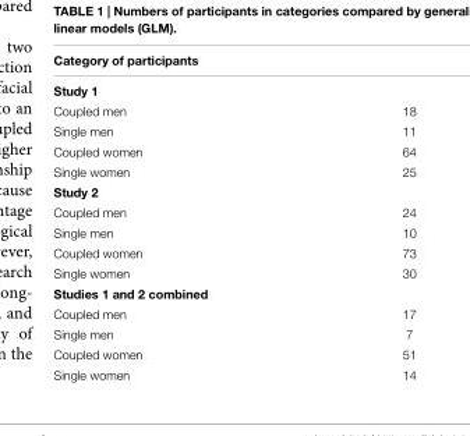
<table><thead><tr><td>Category of participants</td><td></td></tr></thead><tbody><tr><td colspan="2">Study 1</td></tr><tr><td>Coupled men</td><td>18</td></tr><tr><td>Single men</td><td>11</td></tr><tr><td>Coupled women</td><td>64</td></tr><tr><td>Single women</td><td>25</td></tr><tr><td colspan="2">Study 2</td></tr><tr><td>Coupled men</td><td>24</td></tr><tr><td>Single men</td><td>10</td></tr><tr><td>Coupled women</td><td>73</td></tr><tr><td>Single women</td><td>30</td></tr><tr><td colspan="2">Studies 1 and 2 combined</td></tr><tr><td>Coupled men</td><td>17</td></tr><tr><td>Single men</td><td>7</td></tr><tr><td>Coupled women</td><td>51</td></tr><tr><td>Single women</td><td>14</td></tr></tbody></table>